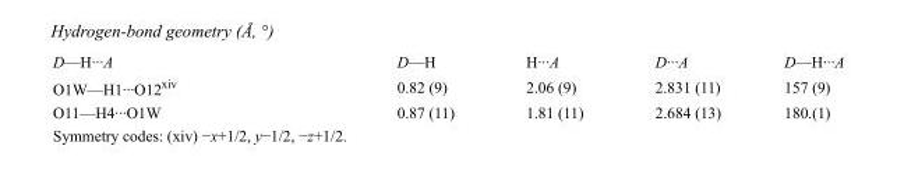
<table><tbody><tr><td>D—H···A</td><td>D—H</td><td>H···A</td><td>D···A</td><td>D—H···A</td></tr><tr><td>O1W—H1···O12<sup>xiv</sup></td><td>0.82 (9)</td><td>2.06 (9)</td><td>2.831 (11)</td><td>157 (9)</td></tr><tr><td>O11—H4···O1W</td><td>0.87 (11)</td><td>1.81 (11)</td><td>2.684 (13)</td><td>180.(1)</td></tr></tbody></table>